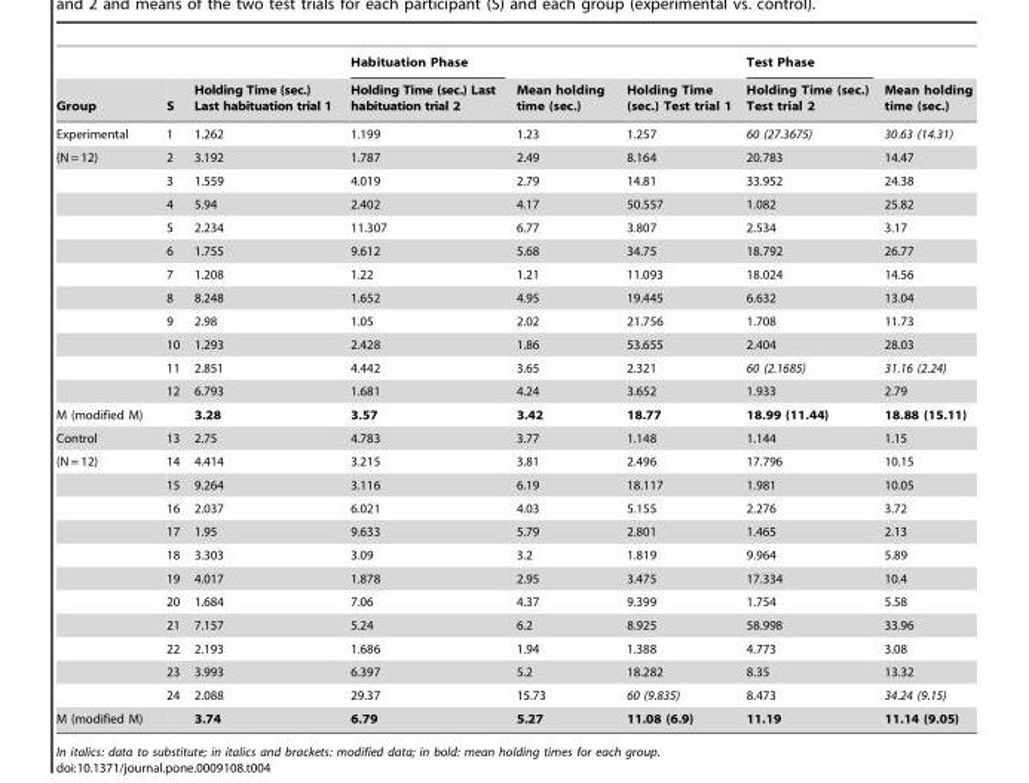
<table><thead><tr><td rowspan="2">Group</td><td rowspan="2">S</td><td rowspan="2">Holding Time (sec.) Last habituation trial 1</td><td rowspan="2">Habituation Phase Holding Time (sec.) Last habituation trial 2</td><td rowspan="2">Mean holding time (sec.)</td><td rowspan="2">Holding Time (sec.) Test trial 1</td><td rowspan="2">Test Phase Holding Time (sec.) Test trial 2</td><td rowspan="2">Mean holding time (sec.)</td></tr><tr></tr></thead><tbody><tr><td>Experimental</td><td>1</td><td>1.262</td><td>1.199</td><td>1.23</td><td>1.257</td><td>60 (27.3675)</td><td>30.63 (14.31)</td></tr><tr><td rowspan="11">(N = 12)</td><td>2</td><td>3.192</td><td>1.787</td><td>2.49</td><td>8.164</td><td>20.783</td><td>14.47</td></tr><tr><td>3</td><td>1.559</td><td>4.019</td><td>2.79</td><td>14.81</td><td>33.952</td><td>24.38</td></tr><tr><td>4</td><td>5.94</td><td>2.402</td><td>4.17</td><td>50.557</td><td>1.082</td><td>25.82</td></tr><tr><td>5</td><td>2.234</td><td>11.307</td><td>6.77</td><td>3.807</td><td>2.534</td><td>3.17</td></tr><tr><td>6</td><td>1.755</td><td>9.612</td><td>5.68</td><td>34.75</td><td>18.792</td><td>26.77</td></tr><tr><td>7</td><td>1.208</td><td>1.22</td><td>1.21</td><td>11.093</td><td>18.024</td><td>14.56</td></tr><tr><td>8</td><td>8.248</td><td>1.652</td><td>4.95</td><td>19.445</td><td>6.632</td><td>13.04</td></tr><tr><td>9</td><td>2.98</td><td>1.05</td><td>2.02</td><td>21.756</td><td>1.708</td><td>11.73</td></tr><tr><td>10</td><td>1.293</td><td>2.428</td><td>1.86</td><td>53.655</td><td>2.404</td><td>28.03</td></tr><tr><td>11</td><td>2.851</td><td>4.442</td><td>3.65</td><td>2.321</td><td>60 (2.1685)</td><td>31.16 (2.24)</td></tr><tr><td>12</td><td>6.793</td><td>1.681</td><td>4.24</td><td>3.652</td><td>1.933</td><td>2.79</td></tr><tr><td>M (modified M)</td><td></td><td>3.28</td><td>3.57</td><td>3.42</td><td>18.77</td><td>18.99 (11.44)</td><td>18.88 (15.11)</td></tr><tr><td>Control</td><td>13</td><td>2.75</td><td>4.783</td><td>3.77</td><td>1.148</td><td>1.144</td><td>1.15</td></tr><tr><td rowspan="11">(N = 12)</td><td>14</td><td>4.414</td><td>3.215</td><td>3.81</td><td>2.496</td><td>17.796</td><td>10.15</td></tr><tr><td>15</td><td>9.264</td><td>3.116</td><td>6.19</td><td>18.117</td><td>1.981</td><td>10.05</td></tr><tr><td>16</td><td>2.037</td><td>6.021</td><td>4.03</td><td>5.155</td><td>2.276</td><td>3.72</td></tr><tr><td>17</td><td>1.95</td><td>9.633</td><td>5.79</td><td>2.801</td><td>1.465</td><td>2.13</td></tr><tr><td>18</td><td>3.303</td><td>3.09</td><td>3.2</td><td>1.819</td><td>9.964</td><td>5.89</td></tr><tr><td>19</td><td>4.017</td><td>1.878</td><td>2.95</td><td>3.475</td><td>17.334</td><td>10.4</td></tr><tr><td>20</td><td>1.684</td><td>7.06</td><td>4.37</td><td>9.399</td><td>1.754</td><td>5.58</td></tr><tr><td>21</td><td>7.157</td><td>5.24</td><td>6.2</td><td>8.925</td><td>58.998</td><td>33.96</td></tr><tr><td>22</td><td>2.193</td><td>1.686</td><td>1.94</td><td>1.388</td><td>4.773</td><td>3.08</td></tr><tr><td>23</td><td>3.993</td><td>6.397</td><td>5.2</td><td>18.282</td><td>8.35</td><td>13.32</td></tr><tr><td>24</td><td>2.088</td><td>29.37</td><td>15.73</td><td>60 (9.835)</td><td>8.473</td><td>34.24 (9.15)</td></tr><tr><td>M (modified M)</td><td></td><td>3.74</td><td>6.79</td><td>5.27</td><td>11.08 (6.9)</td><td>11.19</td><td>11.14 (9.05)</td></tr></tbody></table>